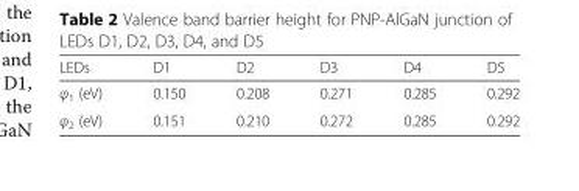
<table><thead><tr><td>LEDs</td><td>D1</td><td>D2</td><td>D3</td><td>D4</td><td>D5</td></tr></thead><tbody><tr><td>φ<sub>1</sub> (eV)</td><td>0.150</td><td>0.208</td><td>0.271</td><td>0.285</td><td>0.292</td></tr><tr><td>φ<sub>2</sub> (eV)</td><td>0.151</td><td>0.210</td><td>0.272</td><td>0.285</td><td>0.292</td></tr></tbody></table>